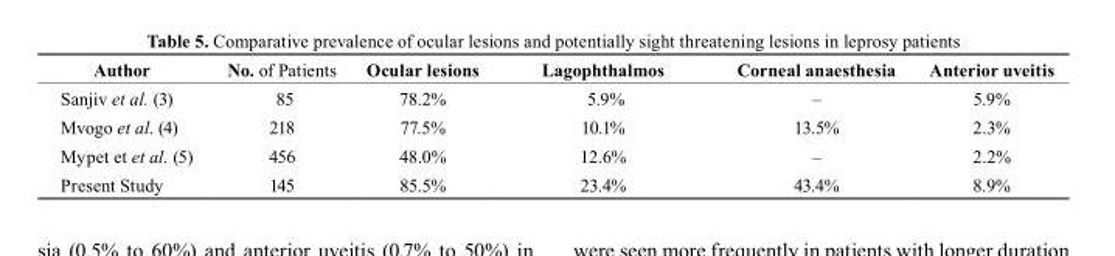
<table><thead><tr><td>Author</td><td>No. of Patients</td><td>Ocular lesions</td><td>Lagophthalmos</td><td>corneal anaesthesia</td><td>Anterior uveitis</td></tr></thead><tbody><tr><td>Sanjiv et al. (3)</td><td>85</td><td>78.2%</td><td>5.9%</td><td>–</td><td>5.9%</td></tr><tr><td>Mvogo et al. (4)</td><td>218</td><td>77.5%</td><td>10.1%</td><td>13.5%</td><td>2.3%</td></tr><tr><td>Mypet et et al. (5)</td><td>456</td><td>48.0%</td><td>12.6%</td><td>–</td><td>2.2%</td></tr><tr><td>Present Study</td><td>145</td><td>85.5%</td><td>23.4%</td><td>43.4%</td><td>8.9%</td></tr></tbody></table>